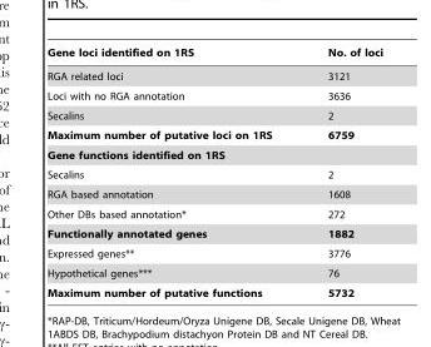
<table><thead><tr><td>Gene loci identified on 1RS</td><td>No. of loci</td></tr></thead><tbody><tr><td>RGA related loci</td><td>3121</td></tr><tr><td>Loci with no RGA annotation</td><td>3636</td></tr><tr><td>Secalins</td><td>2</td></tr><tr><td>Maximum number of putative loci on 1RS</td><td>6759</td></tr><tr><td colspan="2">Gene functions identified on 1RS</td></tr><tr><td>Secalins</td><td>2</td></tr><tr><td>RGA based annotation</td><td>1608</td></tr><tr><td>Other DBs based annotation*</td><td>272</td></tr><tr><td>Functionally annotated genes</td><td>1882</td></tr><tr><td>Expressed genes**</td><td>3776</td></tr><tr><td>Hypothetical genes***</td><td>76</td></tr><tr><td>Maximum number of putative functions</td><td>5732</td></tr></tbody></table>